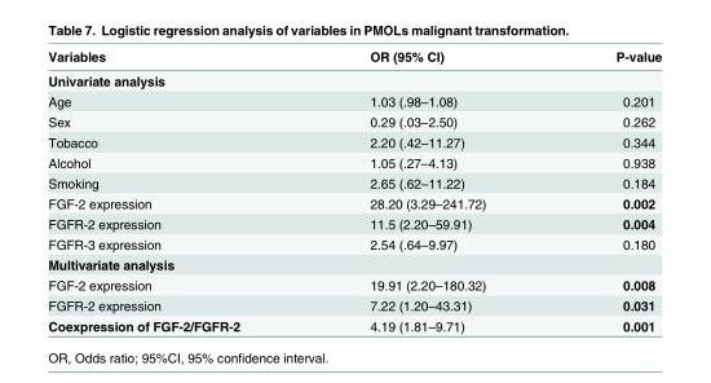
<table><thead><tr><td>Variables</td><td>OR (95% CI)</td><td>P-value</td></tr></thead><tbody><tr><td colspan="3">Univariate analysis</td></tr><tr><td>Age</td><td>1.03 (.98–1.08)</td><td>0.201</td></tr><tr><td>Sex</td><td>0.29 (.03–2.50)</td><td>0.262</td></tr><tr><td>Tobacco</td><td>2.20 (.42–11.27)</td><td>0.344</td></tr><tr><td>Alcohol</td><td>1.05 (.27–4.13)</td><td>0.938</td></tr><tr><td>Smoking</td><td>2.65 (.62–11.22)</td><td>0.184</td></tr><tr><td>FGF-2 expression</td><td>28.20 (3.29–241.72)</td><td>0.002</td></tr><tr><td>FGFR-2 expression</td><td>11.5 (2.20–59.91)</td><td>0.004</td></tr><tr><td>FGFR-3 expression</td><td>2.54 (.64–9.97)</td><td>0.180</td></tr><tr><td colspan="3">Multivariate analysis</td></tr><tr><td>FGF-2 expression</td><td>19.91 (2.20–180.32)</td><td>0.008</td></tr><tr><td>FGFR-2 expression</td><td>7.22 (1.20–43.31)</td><td>0.031</td></tr><tr><td>Coexpression of FGF-2/FGFR-2</td><td>4.19 (1.81–9.71)</td><td>0.001</td></tr></tbody></table>